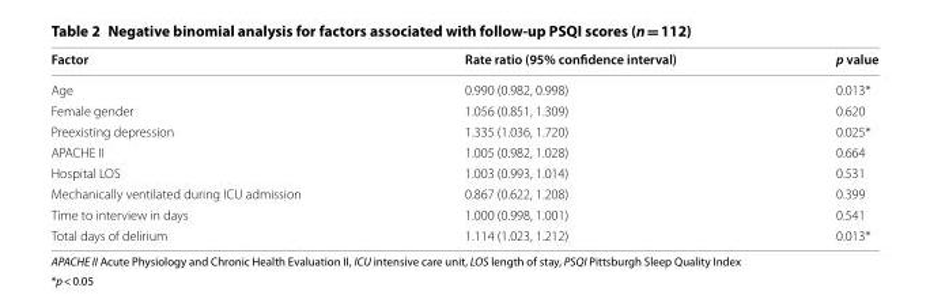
<table><thead><tr><td>Factor</td><td>Rate ratio (95% confidence interval)</td><td>p value</td></tr></thead><tbody><tr><td>Age</td><td>0.990 (0.982, 0.998)</td><td>0.013*</td></tr><tr><td>Female gender</td><td>1.056 (0.851, 1.309)</td><td>0.620</td></tr><tr><td>Preexisting depression</td><td>1.335 (1.036, 1.720)</td><td>0.025*</td></tr><tr><td>APACHE II</td><td>1.005 (0.982, 1.028)</td><td>0.664</td></tr><tr><td>Hospital LOS</td><td>1.003 (0.993, 1.014)</td><td>0.531</td></tr><tr><td>Mechanically ventilated during ICU admission</td><td>0.867 (0.622, 1.208)</td><td>0.399</td></tr><tr><td>Time to interview in days</td><td>1.000 (0.998, 1.001)</td><td>0.541</td></tr><tr><td>Total days of delirium</td><td>1.114 (1.023, 1.212)</td><td>0.013*</td></tr></tbody></table>